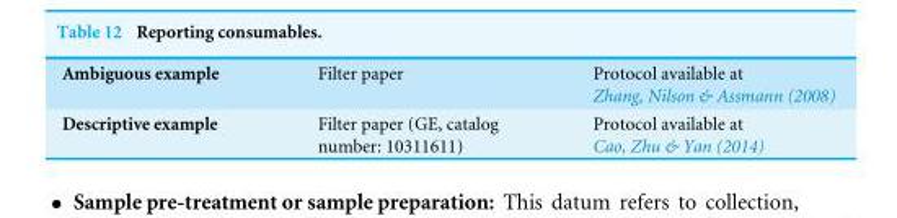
<table><tbody><tr><td>Ambiguous example</td><td>Filter paper</td><td>Protocol available at Zhang, Nilson &amp; Assmann (2008)</td></tr><tr><td>Descriptive example</td><td>Filter paper (GE, catalog number: 10311611)</td><td>Protocol available at Cao, Zhu &amp; Yan (2014)</td></tr></tbody></table>